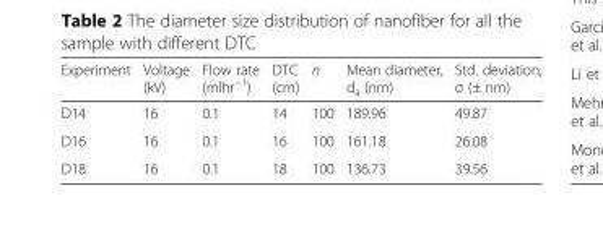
<table><thead><tr><td>Experiment</td><td>Voltage (kV)</td><td>Flow rate (mlhr<sup>−1</sup>)</td><td>DTC (cm)</td><td>n</td><td>Mean diameter, d<sub>a</sub> (nm)</td><td>Std. deviation, σ (± nm)</td></tr></thead><tbody><tr><td>D14</td><td>16</td><td>0.1</td><td>14</td><td>100</td><td>189.96</td><td>49.87</td></tr><tr><td>D16</td><td>16</td><td>0.1</td><td>16</td><td>100</td><td>161.18</td><td>26.08</td></tr><tr><td>D18</td><td>16</td><td>0.1</td><td>18</td><td>100</td><td>136.73</td><td>39.56</td></tr></tbody></table>